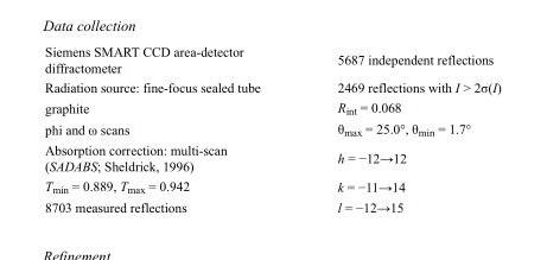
<table><tbody><tr><td>Siemens SMART CCD area-detector diffractometer</td><td>5687 independent reflections</td></tr><tr><td>Radiation source: fine-focus sealed tube</td><td>2469 reflections with I &gt; 2σ(I)</td></tr><tr><td>graphite</td><td>R<sub>int</sub> = 0.068</td></tr><tr><td>phi and ω scans</td><td>θ<sub>max</sub> = 25.0°, θ<sub>min</sub> = 1.7°</td></tr><tr><td>Absorption correction: multi-scan (SADABS; Sheldrick, 1996)</td><td>h = −12→12</td></tr><tr><td>T<sub>min</sub> = 0.889, T<sub>max</sub> = 0.942</td><td>k = −11→14</td></tr><tr><td>8703 measured reflections</td><td>l = −12→15</td></tr></tbody></table>